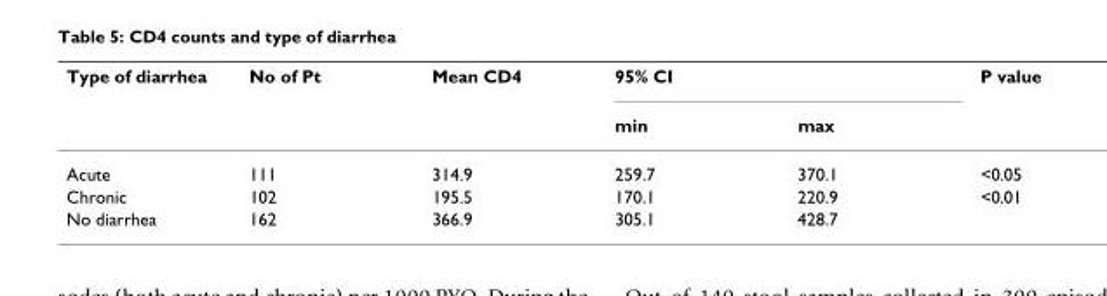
<table><thead><tr><td rowspan="2">Type of diarrhea</td><td rowspan="2">No of Pt</td><td rowspan="2">Mean CD4</td><td colspan="2">95% CI</td><td rowspan="2">P value</td></tr><tr><td>min</td><td>max</td></tr></thead><tbody><tr><td>Acute</td><td>111</td><td>314.9</td><td>259.7</td><td>370.1</td><td>&lt;0.05</td></tr><tr><td>Chronic</td><td>102</td><td>195.5</td><td>170.1</td><td>220.9</td><td>&lt;0.01</td></tr><tr><td>No diarrhea</td><td>162</td><td>366.9</td><td>305.1</td><td>428.7</td><td></td></tr></tbody></table>